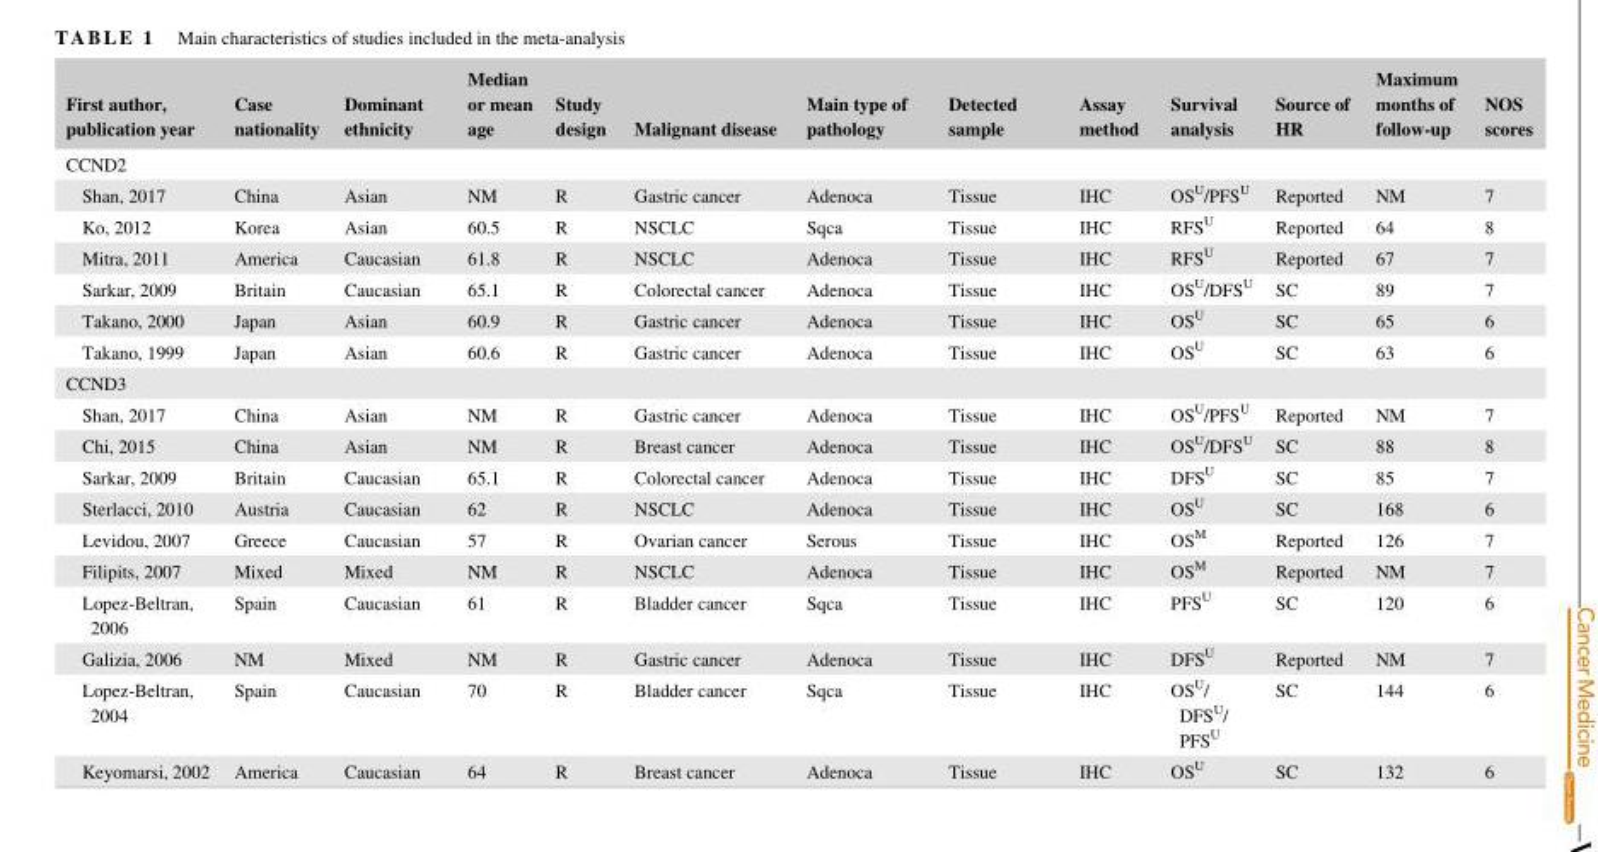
<table><thead><tr><td>First author, publication year</td><td>Case nationality</td><td>Dominant ethnicity</td><td>Median or mean age</td><td>Study design</td><td>Malignant disease</td><td>Main type of pathology</td><td>Detected sample</td><td>Assay method</td><td>Survival analysis</td><td>Source of HR</td><td>Maximum months of follow‐up</td><td>NOS scores</td></tr></thead><tbody><tr><td colspan="13">CCND2</td></tr><tr><td>Shan, 2017</td><td>China</td><td>Asian</td><td>NM</td><td>R</td><td>Gastric cancer</td><td>Adenoca</td><td>Tissue</td><td>IHC</td><td>OS<sup>U</sup>/PFS<sup>U</sup></td><td>Reported</td><td>NM</td><td>7</td></tr><tr><td>Ko, 2012</td><td>Korea</td><td>Asian</td><td>60.5</td><td>R</td><td>NSCLC</td><td>Sqca</td><td>Tissue</td><td>IHC</td><td>RFS<sup>U</sup></td><td>Reported</td><td>64</td><td>8</td></tr><tr><td>Mitra, 2011</td><td>America</td><td>Caucasian</td><td>61.8</td><td>R</td><td>NSCLC</td><td>Adenoca</td><td>Tissue</td><td>IHC</td><td>RFS<sup>U</sup></td><td>Reported</td><td>67</td><td>7</td></tr><tr><td>Sarkar, 2009</td><td>Britain</td><td>Caucasian</td><td>65.1</td><td>R</td><td>Colorectal cancer</td><td>Adenoca</td><td>Tissue</td><td>IHC</td><td>OS<sup>U</sup>/DFS<sup>U</sup></td><td>SC</td><td>89</td><td>7</td></tr><tr><td>Takano, 2000</td><td>Japan</td><td>Asian</td><td>60.9</td><td>R</td><td>Gastric cancer</td><td>Adenoca</td><td>Tissue</td><td>IHC</td><td>OS<sup>U</sup></td><td>SC</td><td>65</td><td>6</td></tr><tr><td>Takano, 1999</td><td>Japan</td><td>Asian</td><td>60.6</td><td>R</td><td>Gastric cancer</td><td>Adenoca</td><td>Tissue</td><td>IHC</td><td>OS<sup>U</sup></td><td>SC</td><td>63</td><td>6</td></tr><tr><td colspan="13">CCND3</td></tr><tr><td>Shan, 2017</td><td>China</td><td>Asian</td><td>NM</td><td>R</td><td>Gastric cancer</td><td>Adenoca</td><td>Tissue</td><td>IHC</td><td>OS<sup>U</sup>/PFS<sup>U</sup></td><td>Reported</td><td>NM</td><td>7</td></tr><tr><td>Chi, 2015</td><td>China</td><td>Asian</td><td>NM</td><td>R</td><td>Breast cancer</td><td>Adenoca</td><td>Tissue</td><td>IHC</td><td>OS<sup>U</sup>/DFS<sup>U</sup></td><td>SC</td><td>88</td><td>8</td></tr><tr><td>Sarkar, 2009</td><td>Britain</td><td>Caucasian</td><td>65.1</td><td>R</td><td>Colorectal cancer</td><td>Adenoca</td><td>Tissue</td><td>IHC</td><td>DFS<sup>U</sup></td><td>SC</td><td>85</td><td>7</td></tr><tr><td>Sterlacci, 2010</td><td>Austria</td><td>Caucasian</td><td>62</td><td>R</td><td>NSCLC</td><td>Adenoca</td><td>Tissue</td><td>IHC</td><td>OS<sup>U</sup></td><td>SC</td><td>168</td><td>6</td></tr><tr><td>Levidou, 2007</td><td>Greece</td><td>Caucasian</td><td>57</td><td>R</td><td>Ovarian cancer</td><td>Serous</td><td>Tissue</td><td>IHC</td><td>OS<sup>M</sup></td><td>Reported</td><td>126</td><td>7</td></tr><tr><td>Filipits, 2007</td><td>Mixed</td><td>Mixed</td><td>NM</td><td>R</td><td>NSCLC</td><td>Adenoca</td><td>Tissue</td><td>IHC</td><td>OS<sup>M</sup></td><td>Reported</td><td>NM</td><td>7</td></tr><tr><td>Lopez‐Beltran, 2006</td><td>Spain</td><td>Caucasian</td><td>61</td><td>R</td><td>Bladder cancer</td><td>Sqca</td><td>Tissue</td><td>IHC</td><td>PFS<sup>U</sup></td><td>SC</td><td>120</td><td>6</td></tr><tr><td>Galizia, 2006</td><td>NM</td><td>Mixed</td><td>NM</td><td>R</td><td>Gastric cancer</td><td>Adenoca</td><td>Tissue</td><td>IHC</td><td>DFS<sup>U</sup></td><td>Reported</td><td>NM</td><td>7</td></tr><tr><td>Lopez‐Beltran, 2004</td><td>Spain</td><td>Caucasian</td><td>70</td><td>R</td><td>Bladder cancer</td><td>Sqca</td><td>Tissue</td><td>IHC</td><td>OS<sup>U</sup>/ DFS<sup>U</sup>/ PFS<sup>U</sup></td><td>SC</td><td>144</td><td>6</td></tr><tr><td>Keyomarsi, 2002</td><td>America</td><td>Caucasian</td><td>64</td><td>R</td><td>Breast cancer</td><td>Adenoca</td><td>Tissue</td><td>IHC</td><td>OS<sup>U</sup></td><td>SC</td><td>132</td><td>6</td></tr></tbody></table>